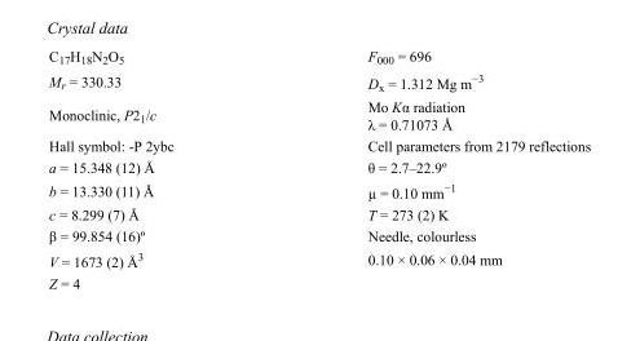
<table><tbody><tr><td>C<sub>17</sub>H<sub>18</sub>N<sub>2</sub>O<sub>5</sub></td><td>F<sub>000</sub> = 696</td></tr><tr><td>M<sub>r</sub> = 330.33</td><td>D<sub>x</sub> = 1.312 Mg m<sup>−3</sup></td></tr><tr><td>Monoclinic, P2<sub>1</sub>/c</td><td>Mo Kα radiation λ = 0.71073 Å</td></tr><tr><td>Hall symbol: -P 2ybc</td><td>Cell parameters from 2179 reflections</td></tr><tr><td>a = 15.348 (12) Å</td><td>θ = 2.7–22.9º</td></tr><tr><td>b = 13.330 (11) Å</td><td>µ = 0.10 mm<sup>−1</sup></td></tr><tr><td>c = 8.299 (7) Å</td><td>T = 273 (2) K</td></tr><tr><td>β = 99.854 (16)º</td><td>Needle, colourless</td></tr><tr><td>V = 1673 (2) Å<sup>3</sup></td><td>0.10 × 0.06 × 0.04 mm</td></tr><tr><td>Z = 4</td><td></td></tr></tbody></table>